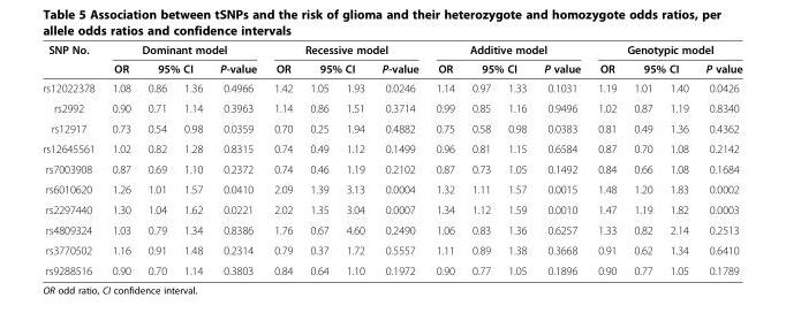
<table><thead><tr><td rowspan="3">SNP No. rs12022378</td><td colspan="4">Dominant model</td><td colspan="4">Recessive model</td><td colspan="4">Additive model</td><td colspan="4">Genotypic model</td></tr><tr><td rowspan="2">OR 1.08</td><td colspan="2">95% CI</td><td rowspan="2">P-value 0.4966</td><td rowspan="2">OR 1.42</td><td colspan="2">95% CI</td><td rowspan="2">P-value 0.0246</td><td rowspan="2">OR 1.14</td><td colspan="2">95% CI</td><td rowspan="2">P value 0.1031</td><td rowspan="2">OR 1.19</td><td colspan="2">95% CI</td><td rowspan="2">P value 0.0426</td></tr><tr><td>0.86</td><td>1.36</td><td>1.05</td><td>1.93</td><td>0.97</td><td>1.33</td><td>1.01</td><td>1.40</td></tr></thead><tbody><tr><td>rs2992</td><td>0.90</td><td>0.71</td><td>1.14</td><td>0.3963</td><td>1.14</td><td>0.86</td><td>1.51</td><td>0.3714</td><td>0.99</td><td>0.85</td><td>1.16</td><td>0.9496</td><td>1.02</td><td>0.87</td><td>1.19</td><td>0.8340</td></tr><tr><td>rs12917</td><td>0.73</td><td>0.54</td><td>0.98</td><td>0.0359</td><td>0.70</td><td>0.25</td><td>1.94</td><td>0.4882</td><td>0.75</td><td>0.58</td><td>0.98</td><td>0.0383</td><td>0.81</td><td>0.49</td><td>1.36</td><td>0.4362</td></tr><tr><td>rs12645561</td><td>1.02</td><td>0.82</td><td>1.28</td><td>0.8315</td><td>0.74</td><td>0.49</td><td>1.12</td><td>0.1499</td><td>0.96</td><td>0.81</td><td>1.15</td><td>0.6584</td><td>0.87</td><td>0.70</td><td>1.08</td><td>0.2142</td></tr><tr><td>rs7003908</td><td>0.87</td><td>0.69</td><td>1.10</td><td>0.2372</td><td>0.74</td><td>0.46</td><td>1.19</td><td>0.2102</td><td>0.87</td><td>0.73</td><td>1.05</td><td>0.1492</td><td>0.84</td><td>0.66</td><td>1.08</td><td>0.1684</td></tr><tr><td>rs6010620</td><td>1.26</td><td>1.01</td><td>1.57</td><td>0.0410</td><td>2.09</td><td>1.39</td><td>3.13</td><td>0.0004</td><td>1.32</td><td>1.11</td><td>1.57</td><td>0.0015</td><td>1.48</td><td>1.20</td><td>1.83</td><td>0.0002</td></tr><tr><td>rs2297440</td><td>1.30</td><td>1.04</td><td>1.62</td><td>0.0221</td><td>2.02</td><td>1.35</td><td>3.04</td><td>0.0007</td><td>1.34</td><td>1.12</td><td>1.59</td><td>0.0010</td><td>1.47</td><td>1.19</td><td>1.82</td><td>0.0003</td></tr><tr><td>rs4809324</td><td>1.03</td><td>0.79</td><td>1.34</td><td>0.8386</td><td>1.76</td><td>0.67</td><td>4.60</td><td>0.2490</td><td>1.06</td><td>0.83</td><td>1.36</td><td>0.6257</td><td>1.33</td><td>0.82</td><td>2.14</td><td>0.2513</td></tr><tr><td>rs3770502</td><td>1.16</td><td>0.91</td><td>1.48</td><td>0.2314</td><td>0.79</td><td>0.37</td><td>1.72</td><td>0.5557</td><td>1.11</td><td>0.89</td><td>1.38</td><td>0.3668</td><td>0.91</td><td>0.62</td><td>1.34</td><td>0.6410</td></tr><tr><td>rs9288516</td><td>0.90</td><td>0.70</td><td>1.14</td><td>0.3803</td><td>0.84</td><td>0.64</td><td>1.10</td><td>0.1972</td><td>0.90</td><td>0.77</td><td>1.05</td><td>0.1896</td><td>0.90</td><td>0.77</td><td>1.05</td><td>0.1789</td></tr></tbody></table>